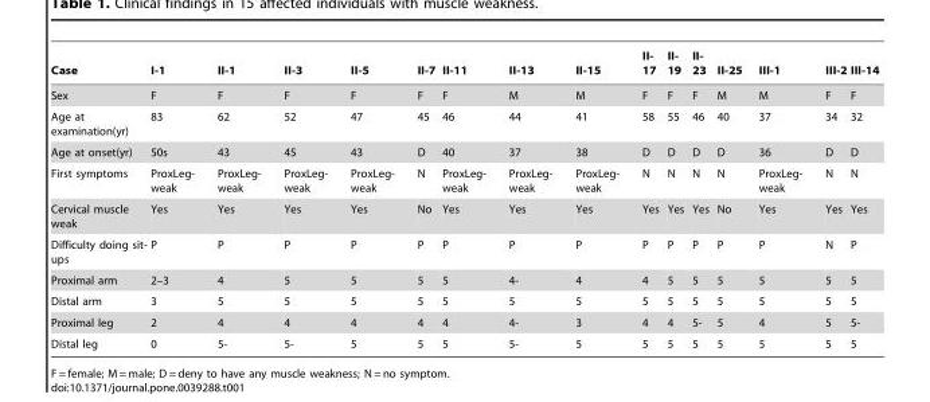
<table><thead><tr><td>Case</td><td>I-1</td><td>II-1</td><td>II-3</td><td>II-5</td><td>II-7</td><td>II-11</td><td>II-13</td><td>II-15</td><td>II- 17</td><td>II- 19</td><td>II- 23</td><td>II-25</td><td>III-1</td><td>III-2</td><td>III-14</td></tr></thead><tbody><tr><td>Sex</td><td>F</td><td>F</td><td>F</td><td>F</td><td>F</td><td>F</td><td>M</td><td>M</td><td>F</td><td>F</td><td>F</td><td>M</td><td>M</td><td>F</td><td>F</td></tr><tr><td>Age at examination(yr)</td><td>83</td><td>62</td><td>52</td><td>47</td><td>45</td><td>46</td><td>44</td><td>41</td><td>58</td><td>55</td><td>46</td><td>40</td><td>37</td><td>34</td><td>32</td></tr><tr><td>Age at onset(yr)</td><td>50s</td><td>43</td><td>45</td><td>43</td><td>D</td><td>40</td><td>37</td><td>38</td><td>D</td><td>D</td><td>D</td><td>D</td><td>36</td><td>D</td><td>D</td></tr><tr><td>First symptoms</td><td>ProxLeg- weak</td><td>ProxLeg- weak</td><td>ProxLeg- weak</td><td>ProxLeg- weak</td><td>N</td><td>ProxLeg- weak</td><td>ProxLeg- weak</td><td>ProxLeg- weak</td><td>N</td><td>N</td><td>N</td><td>N</td><td>ProxLeg- weak</td><td>N</td><td>N</td></tr><tr><td>Cervical muscle weak</td><td>Yes</td><td>Yes</td><td>Yes</td><td>Yes</td><td>No</td><td>Yes</td><td>Yes</td><td>Yes</td><td>Yes</td><td>Yes</td><td>Yes</td><td>No</td><td>Yes</td><td>Yes</td><td>Yes</td></tr><tr><td>Difficulty doing sit- ups</td><td>P</td><td>P</td><td>P</td><td>P</td><td>P</td><td>P</td><td>P</td><td>P</td><td>P</td><td>P</td><td>P</td><td>P</td><td>P</td><td>N</td><td>P</td></tr><tr><td>Proximal arm</td><td>2–3</td><td>4</td><td>5</td><td>5</td><td>5</td><td>5</td><td>4-</td><td>4</td><td>4</td><td>5</td><td>5</td><td>5</td><td>5</td><td>5</td><td>5</td></tr><tr><td>Distal arm</td><td>3</td><td>5</td><td>5</td><td>5</td><td>5</td><td>5</td><td>5</td><td>5</td><td>5</td><td>5</td><td>5</td><td>5</td><td>5</td><td>5</td><td>5</td></tr><tr><td>Proximal leg</td><td>2</td><td>4</td><td>4</td><td>4</td><td>4</td><td>4</td><td>4-</td><td>3</td><td>4</td><td>4</td><td>5-</td><td>5</td><td>4</td><td>5</td><td>5-</td></tr><tr><td>Distal leg</td><td>0</td><td>5-</td><td>5-</td><td>5</td><td>5</td><td>5</td><td>5-</td><td>5</td><td>5</td><td>5</td><td>5</td><td>5</td><td>5</td><td>5</td><td>5</td></tr></tbody></table>